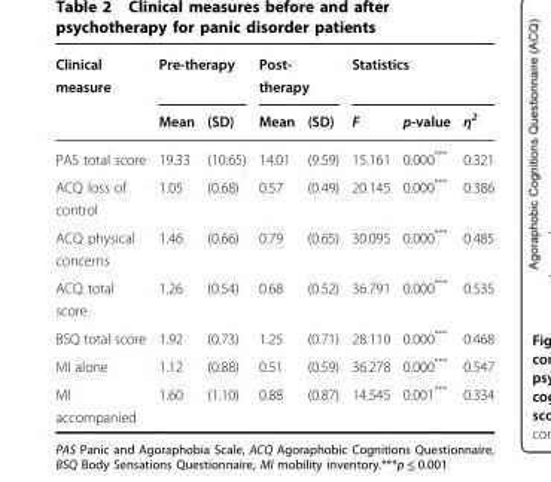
<table><thead><tr><td rowspan="2">Clinical measure</td><td colspan="2">Pre-therapy</td><td colspan="2">Post- therapy</td><td colspan="3">Statistics</td></tr><tr><td>Mean</td><td>(SD)</td><td>Mean</td><td>(SD)</td><td>F</td><td>p-value</td><td>η<sup>2</sup></td></tr></thead><tbody><tr><td>PAS total score</td><td>19.33</td><td>(10.65)</td><td>14.01</td><td>(9.59)</td><td>15.161</td><td>0.000***</td><td>0.321</td></tr><tr><td>ACQ loss of control</td><td>1.05</td><td>(0.68)</td><td>0.57</td><td>(0.49)</td><td>20.145</td><td>0.000***</td><td>0.386</td></tr><tr><td>ACQ physical concerns</td><td>1.46</td><td>(0.66)</td><td>0.79</td><td>(0.65)</td><td>30.095</td><td>0.000***</td><td>0.485</td></tr><tr><td>ACQ total score</td><td>1.26</td><td>(0.54)</td><td>0.68</td><td>(0.52)</td><td>36.791</td><td>0.000***</td><td>0.535</td></tr><tr><td>BSQ total score</td><td>1.92</td><td>(0.73)</td><td>1.25</td><td>(0.71)</td><td>28.110</td><td>0.000***</td><td>0.468</td></tr><tr><td>MI alone</td><td>1.12</td><td>(0.88)</td><td>0.51</td><td>(0.59)</td><td>36.278</td><td>0.000***</td><td>0.547</td></tr><tr><td>MI accompanied</td><td>1.60</td><td>(1.10)</td><td>0.88</td><td>(0.87)</td><td>14.545</td><td>0.001***</td><td>0.334</td></tr></tbody></table>